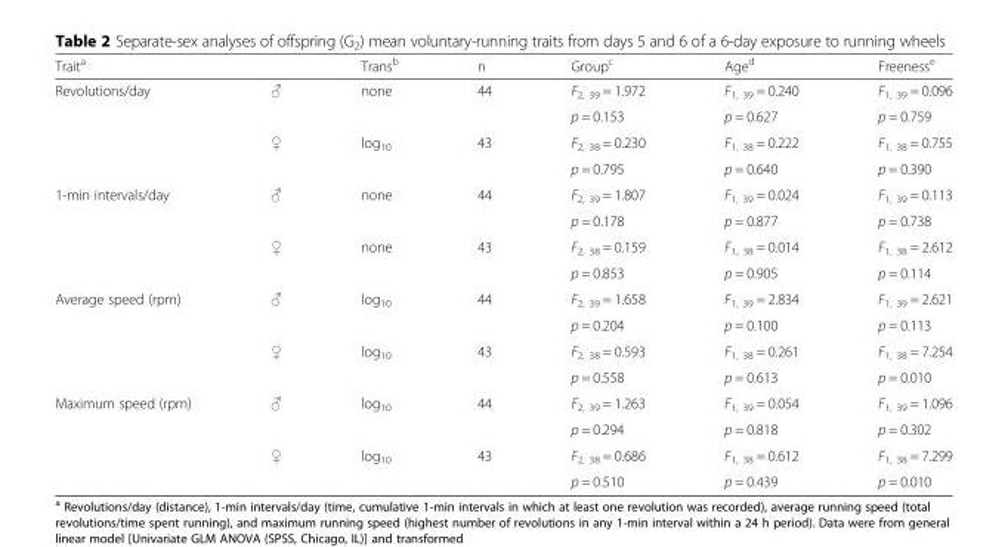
<table><thead><tr><td>Trait<sup>a</sup></td><td></td><td>Trans<sup>b</sup></td><td>n</td><td>Group<sup>c</sup></td><td>Age<sup>d</sup></td><td>Freeness<sup>e</sup></td></tr></thead><tbody><tr><td rowspan="4">Revolutions/day</td><td rowspan="2">♂</td><td rowspan="2">none</td><td rowspan="2">44</td><td>F<sub>2, 39</sub> = 1.972</td><td>F<sub>1, 39</sub> = 0.240</td><td>F<sub>1, 39</sub> = 0.096</td></tr><tr><td>p = 0.153</td><td>p = 0.627</td><td>p = 0.759</td></tr><tr><td rowspan="2">♀</td><td rowspan="2">log<sub>10</sub></td><td rowspan="2">43</td><td>F<sub>2, 38</sub> = 0.230</td><td>F<sub>1, 38</sub> = 0.222</td><td>F<sub>1, 38</sub> = 0.755</td></tr><tr><td>p = 0.795</td><td>p = 0.640</td><td>p = 0.390</td></tr><tr><td rowspan="4">1-min intervals/day</td><td rowspan="2">♂</td><td rowspan="2">none</td><td rowspan="2">44</td><td>F<sub>2, 39</sub> = 1.807</td><td>F<sub>1, 39</sub> = 0.024</td><td>F<sub>1, 39</sub> = 0.113</td></tr><tr><td>p = 0.178</td><td>p = 0.877</td><td>p = 0.738</td></tr><tr><td rowspan="2">♀</td><td rowspan="2">none</td><td rowspan="2">43</td><td>F<sub>2, 38</sub> = 0.159</td><td>F<sub>1, 38</sub> = 0.014</td><td>F<sub>1, 38</sub> = 2.612</td></tr><tr><td>p = 0.853</td><td>p = 0.905</td><td>p = 0.114</td></tr><tr><td rowspan="4">Average speed (rpm)</td><td rowspan="2">♂</td><td rowspan="2">log<sub>10</sub></td><td rowspan="2">44</td><td>F<sub>2, 39</sub> = 1.658</td><td>F<sub>1, 39</sub> = 2.834</td><td>F<sub>1, 39</sub> = 2.621</td></tr><tr><td>p = 0.204</td><td>p = 0.100</td><td>p = 0.113</td></tr><tr><td rowspan="2">♀</td><td rowspan="2">log<sub>10</sub></td><td rowspan="2">43</td><td>F<sub>2, 38</sub> = 0.593</td><td>F<sub>1, 38</sub> = 0.261</td><td>F<sub>1, 38</sub> = 7.254</td></tr><tr><td>p = 0.558</td><td>p = 0.613</td><td>p = 0.010</td></tr><tr><td rowspan="4">Maximum speed (rpm)</td><td rowspan="2">♂</td><td rowspan="2">log<sub>10</sub></td><td rowspan="2">44</td><td>F<sub>2, 39</sub> = 1.263</td><td>F<sub>1, 39</sub> = 0.054</td><td>F<sub>1, 39</sub> = 1.096</td></tr><tr><td>p = 0.294</td><td>p = 0.818</td><td>p = 0.302</td></tr><tr><td rowspan="2">♀</td><td rowspan="2">log<sub>10</sub></td><td rowspan="2">43</td><td>F<sub>2, 38</sub> = 0.686</td><td>F<sub>1, 38</sub> = 0.612</td><td>F<sub>1, 38</sub> = 7.299</td></tr><tr><td>p = 0.510</td><td>p = 0.439</td><td>p = 0.010</td></tr></tbody></table>